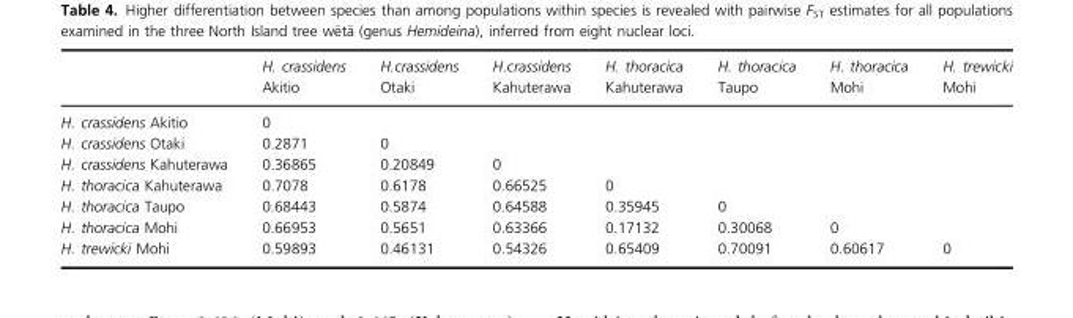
<table><thead><tr><td></td><td>H. crassidens Akitio</td><td>H.crassidens Otaki</td><td>H.crassidens Kahuterawa</td><td>H. thoracica Kahuterawa</td><td>H. thoracica Taupo</td><td>H. thoracica Mohi</td><td>H. trewicki Mohi</td></tr></thead><tbody><tr><td>H. crassidens Akitio</td><td>0</td><td></td><td></td><td></td><td></td><td></td><td></td></tr><tr><td>H. crassidens Otaki</td><td>0.2871</td><td>0</td><td></td><td></td><td></td><td></td><td></td></tr><tr><td>H. crassidens Kahuterawa</td><td>0.36865</td><td>0.20849</td><td>0</td><td></td><td></td><td></td><td></td></tr><tr><td>H. thoracica Kahuterawa</td><td>0.7078</td><td>0.6178</td><td>0.66525</td><td>0</td><td></td><td></td><td></td></tr><tr><td>H. thoracica Taupo</td><td>0.68443</td><td>0.5874</td><td>0.64588</td><td>0.35945</td><td>0</td><td></td><td></td></tr><tr><td>H. thoracica Mohi</td><td>0.66953</td><td>0.5651</td><td>0.63366</td><td>0.17132</td><td>0.30068</td><td>0</td><td></td></tr><tr><td>H. trewicki Mohi</td><td>0.59893</td><td>0.46131</td><td>0.54326</td><td>0.65409</td><td>0.70091</td><td>0.60617</td><td>0</td></tr></tbody></table>